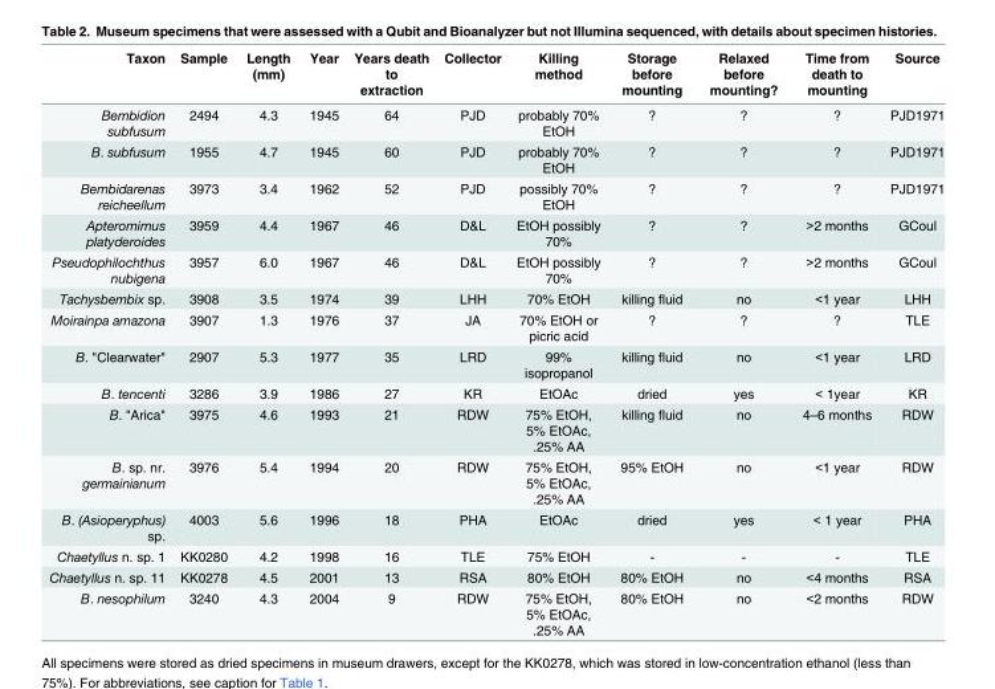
<table><thead><tr><td>Taxon</td><td>Sample</td><td>Length (mm)</td><td>Year</td><td>Years death to extraction</td><td>Collector</td><td>Killing method</td><td>Storage before mounting</td><td>Relaxed before mounting?</td><td>Time from death to mounting</td><td>Source</td></tr></thead><tbody><tr><td>Bembidion subfusum</td><td>2494</td><td>4.3</td><td>1945</td><td>64</td><td>PJD</td><td>probably 70% EtOH</td><td>?</td><td>?</td><td>?</td><td>PJD1971</td></tr><tr><td>B. subfusum</td><td>1955</td><td>4.7</td><td>1945</td><td>60</td><td>PJD</td><td>probably 70% EtOH</td><td>?</td><td>?</td><td>?</td><td>PJD1971</td></tr><tr><td>Bembidarenas reicheellum</td><td>3973</td><td>3.4</td><td>1962</td><td>52</td><td>PJD</td><td>possibly 70% EtOH</td><td>?</td><td>?</td><td>?</td><td>PJD1971</td></tr><tr><td>Apteromimus platyderoides</td><td>3959</td><td>4.4</td><td>1967</td><td>46</td><td>D&amp;L</td><td>EtOH possibly 70%</td><td>?</td><td>?</td><td>&gt;2 months</td><td>GCoul</td></tr><tr><td>Pseudophilochthus nubigena</td><td>3957</td><td>6.0</td><td>1967</td><td>46</td><td>D&amp;L</td><td>EtOH possibly 70%</td><td>?</td><td>?</td><td>&gt;2 months</td><td>GCoul</td></tr><tr><td>Tachysbembix sp.</td><td>3908</td><td>3.5</td><td>1974</td><td>39</td><td>LHH</td><td>70% EtOH</td><td>killing fluid</td><td>no</td><td>&lt;1 year</td><td>LHH</td></tr><tr><td>Moirainpa amazona</td><td>3907</td><td>1.3</td><td>1976</td><td>37</td><td>JA</td><td>70% EtOH or picric acid</td><td>?</td><td>?</td><td>?</td><td>TLE</td></tr><tr><td>B. &quot;Clearwater&quot;</td><td>2907</td><td>5.3</td><td>1977</td><td>35</td><td>LRD</td><td>99% isopropanol</td><td>killing fluid</td><td>no</td><td>&lt;1 year</td><td>LRD</td></tr><tr><td>B. tencenti</td><td>3286</td><td>3.9</td><td>1986</td><td>27</td><td>KR</td><td>EtOAc</td><td>dried</td><td>yes</td><td>&lt; 1year</td><td>KR</td></tr><tr><td>B. &quot;Arica&quot;</td><td>3975</td><td>4.6</td><td>1993</td><td>21</td><td>RDW</td><td>75% EtOH, 5% EtOAc, .25% AA</td><td>killing fluid</td><td>no</td><td>4–6 months</td><td>RDW</td></tr><tr><td>B. sp. nr. germainianum</td><td>3976</td><td>5.4</td><td>1994</td><td>20</td><td>RDW</td><td>75% EtOH, 5% EtOAc, .25% AA</td><td>95% EtOH</td><td>no</td><td>&lt;1 year</td><td>RDW</td></tr><tr><td>B. (Asioperyphus) sp.</td><td>4003</td><td>5.6</td><td>1996</td><td>18</td><td>PHA</td><td>EtOAc</td><td>dried</td><td>yes</td><td>&lt; 1 year</td><td>PHA</td></tr><tr><td>Chaetyllus n. sp. 1</td><td>KK0280</td><td>4.2</td><td>1998</td><td>16</td><td>TLE</td><td>75% EtOH</td><td>-</td><td>-</td><td>-</td><td>TLE</td></tr><tr><td>Chaetyllus n. sp. 11</td><td>KK0278</td><td>4.5</td><td>2001</td><td>13</td><td>RSA</td><td>80% EtOH</td><td>80% EtOH</td><td>no</td><td>&lt;4 months</td><td>RSA</td></tr><tr><td>B. nesophilum</td><td>3240</td><td>4.3</td><td>2004</td><td>9</td><td>RDW</td><td>75% EtOH, 5% EtOAc, .25% AA</td><td>80% EtOH</td><td>no</td><td>&lt;2 months</td><td>RDW</td></tr></tbody></table>